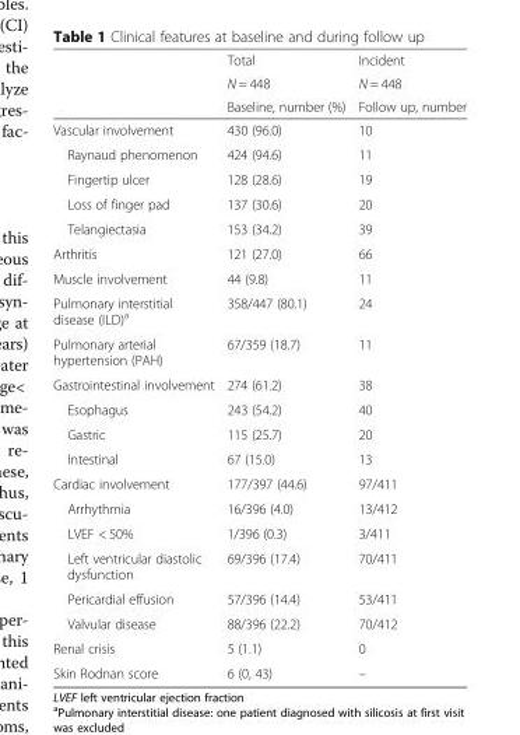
<table><thead><tr><td rowspan="3"></td><td rowspan="3">Total N = 448 Baseline, number (%)</td><td rowspan="3">Incident N = 448 Follow up, number</td></tr><tr></tr><tr></tr></thead><tbody><tr><td>Vascular involvement</td><td>430 (96.0)</td><td>10</td></tr><tr><td>Raynaud phenomenon</td><td>424 (94.6)</td><td>11</td></tr><tr><td>Fingertip ulcer</td><td>128 (28.6)</td><td>19</td></tr><tr><td>Loss of finger pad</td><td>137 (30.6)</td><td>20</td></tr><tr><td>Telangiectasia</td><td>153 (34.2)</td><td>39</td></tr><tr><td>Arthritis</td><td>121 (27.0)</td><td>66</td></tr><tr><td>Muscle involvement</td><td>44 (9.8)</td><td>11</td></tr><tr><td>Pulmonary interstitial disease (ILD)<sup>a</sup></td><td>358/447 (80.1)</td><td>24</td></tr><tr><td>Pulmonary arterial hypertension (PAH)</td><td>67/359 (18.7)</td><td>11</td></tr><tr><td>Gastrointestinal involvement</td><td>274 (61.2)</td><td>38</td></tr><tr><td>Esophagus</td><td>243 (54.2)</td><td>40</td></tr><tr><td>Gastric</td><td>115 (25.7)</td><td>20</td></tr><tr><td>Intestinal</td><td>67 (15.0)</td><td>13</td></tr><tr><td>Cardiac involvement</td><td>177/397 (44.6)</td><td>97/411</td></tr><tr><td>Arrhythmia</td><td>16/396 (4.0)</td><td>13/412</td></tr><tr><td>LVEF &lt; 50%</td><td>1/396 (0.3)</td><td>3/411</td></tr><tr><td>Left ventricular diastolic dysfunction</td><td>69/396 (17.4)</td><td>70/411</td></tr><tr><td>Pericardial effusion</td><td>57/396 (14.4)</td><td>53/411</td></tr><tr><td>Valvular disease</td><td>88/396 (22.2)</td><td>70/412</td></tr><tr><td>Renal crisis</td><td>5 (1.1)</td><td>0</td></tr><tr><td>Skin Rodnan score</td><td>6 (0, 43)</td><td>–</td></tr></tbody></table>